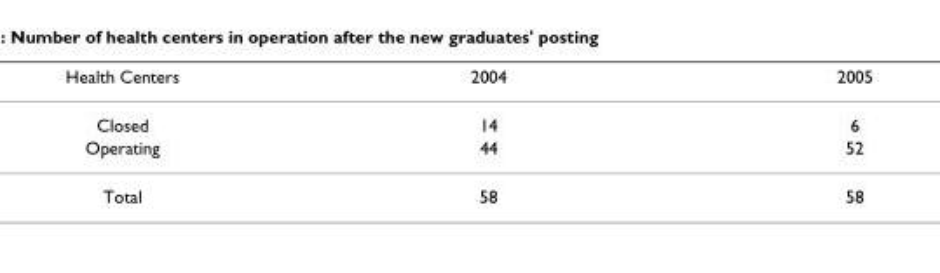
<table><thead><tr><td>Health Centers</td><td>2004</td><td>2005</td></tr></thead><tbody><tr><td>Closed</td><td>14</td><td>6</td></tr><tr><td>Operating</td><td>44</td><td>52</td></tr><tr><td>Total</td><td>58</td><td>58</td></tr></tbody></table>